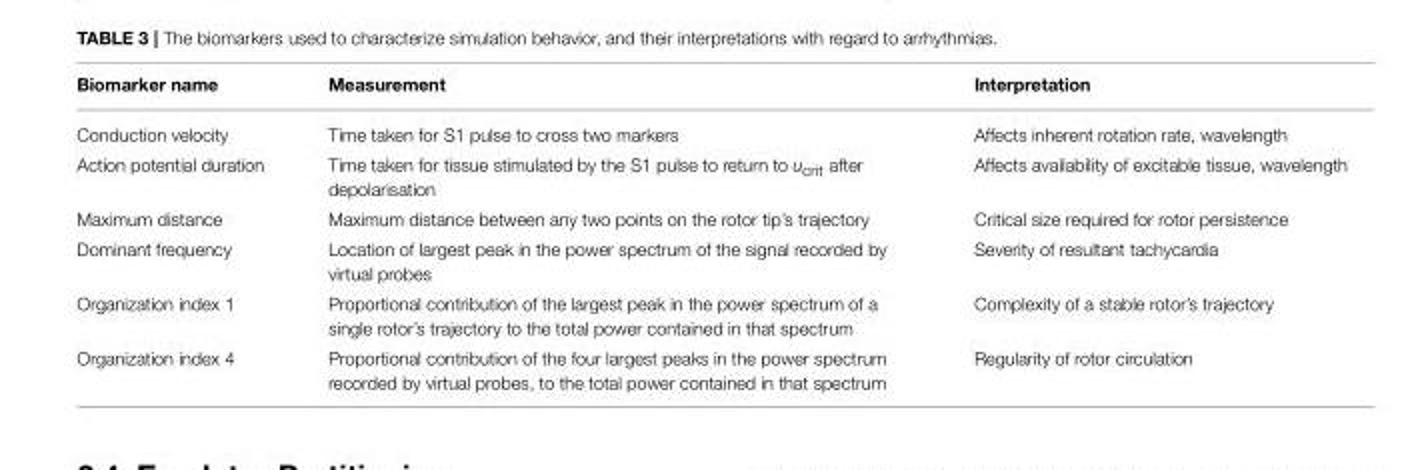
<table><thead><tr><td>Biomarker name</td><td>Measurement</td><td>Interpretation</td></tr></thead><tbody><tr><td>Conduction velocity</td><td>Time taken for S1 pulse to cross two markers</td><td>Affects inherent rotation rate, wavelength</td></tr><tr><td>Action potential duration</td><td>Time taken for tissue stimulated by the S1 pulse to return to u<sub>crit</sub> after depolarisation</td><td>Affects availability of excitable tissue, wavelength</td></tr><tr><td>Maximum distance</td><td>Maximum distance between any two points on the rotor tip’s trajectory</td><td>Critical size required for rotor persistence</td></tr><tr><td>Dominant frequency</td><td>Location of largest peak in the power spectrum of the signal recorded by virtual probes</td><td>Severity of resultant tachycardia</td></tr><tr><td>Organization index 1</td><td>Proportional contribution of the largest peak in the power spectrum of a single rotor’s trajectory to the total power contained in that spectrum</td><td>Complexity of a stable rotor’s trajectory</td></tr><tr><td>Organization index 4</td><td>Proportional contribution of the four largest peaks in the power spectrum recorded by virtual probes, to the total power contained in that spectrum</td><td>Regularity of rotor circulation</td></tr></tbody></table>